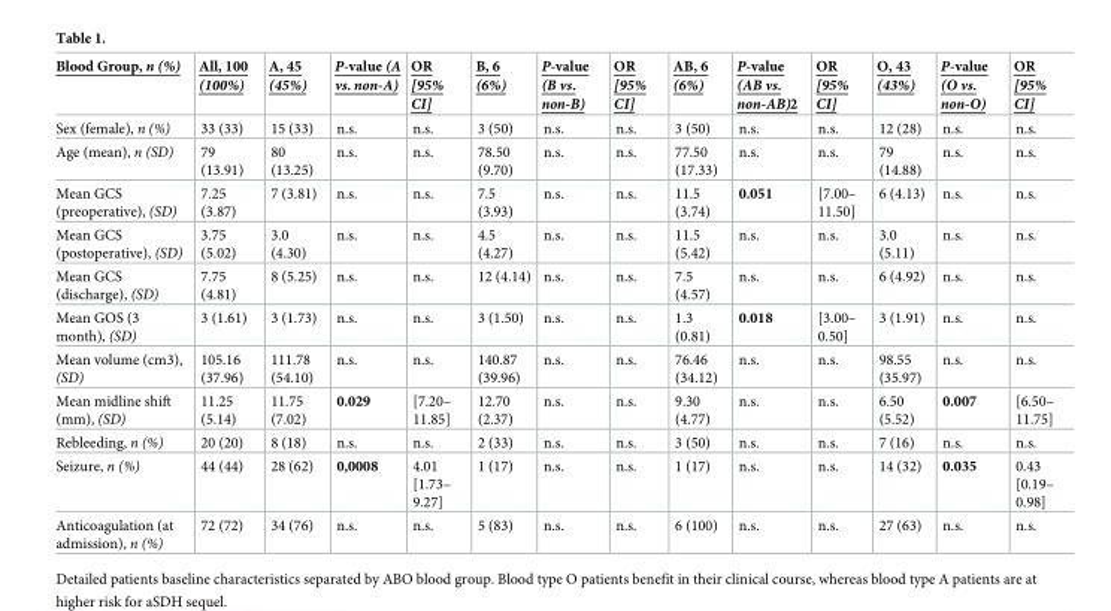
<table><thead><tr><td>Blood Group, n (%)</td><td>All, 100 (100%)</td><td>A, 45 (45%)</td><td>P-value (A vs. non-A)</td><td>OR [95% CI]</td><td>B, 6 (6%)</td><td>P-value (B vs. non-B)</td><td>OR [95% CI]</td><td>AB, 6 (6%)</td><td>P-value (AB vs. non-AB)2</td><td>OR [95% CI]</td><td>O, 43 (43%)</td><td>P-value (O vs. non-O)</td><td>OR [95% CI]</td></tr></thead><tbody><tr><td>Sex (female), n (%)</td><td>33 (33)</td><td>15 (33)</td><td>n.s.</td><td>n.s.</td><td>3 (50)</td><td>n.s.</td><td>n.s.</td><td>3 (50)</td><td>n.s.</td><td>n.s.</td><td>12 (28)</td><td>n.s.</td><td>n.s.</td></tr><tr><td>Age (mean), n (SD)</td><td>79 (13.91)</td><td>80 (13.25)</td><td>n.s.</td><td>n.s.</td><td>78.50 (9.70)</td><td>n.s.</td><td>n.s.</td><td>77.50 (17.33)</td><td>n.s.</td><td>n.s.</td><td>79 (14.88)</td><td>n.s.</td><td>n.s.</td></tr><tr><td>Mean GCS (preoperative), (SD)</td><td>7.25 (3.87)</td><td>7 (3.81)</td><td>n.s.</td><td>n.s.</td><td>7.5 (3.93)</td><td>n.s.</td><td>n.s.</td><td>11.5 (3.74)</td><td>0.051</td><td>[7.00– 11.50]</td><td>6 (4.13)</td><td>n.s.</td><td>n.s.</td></tr><tr><td>Mean GCS (postoperative), (SD)</td><td>3.75 (5.02)</td><td>3.0 (4.30)</td><td>n.s.</td><td>n.s.</td><td>4.5 (4.27)</td><td>n.s.</td><td>n.s.</td><td>11.5 (5.42)</td><td>n.s.</td><td>n.s.</td><td>3.0 (5.11)</td><td>n.s.</td><td>n.s.</td></tr><tr><td>Mean GCS (discharge), (SD)</td><td>7.75 (4.81)</td><td>8 (5.25)</td><td>n.s.</td><td>n.s.</td><td>12 (4.14)</td><td>n.s.</td><td>n.s.</td><td>7.5 (4.57)</td><td>n.s.</td><td>n.s.</td><td>6 (4.92)</td><td>n.s.</td><td>n.s.</td></tr><tr><td>Mean GOS (3 month), (SD)</td><td>3 (1.61)</td><td>3 (1.73)</td><td>n.s.</td><td>n.s.</td><td>3 (1.50)</td><td>n.s.</td><td>n.s.</td><td>1.3 (0.81)</td><td>0.018</td><td>[3.00– 0.50]</td><td>3 (1.91)</td><td>n.s.</td><td>n.s.</td></tr><tr><td>Mean volume (cm3), (SD)</td><td>105.16 (37.96)</td><td>111.78 (54.10)</td><td>n.s.</td><td>n.s.</td><td>140.87 (39.96)</td><td>n.s.</td><td>n.s.</td><td>76.46 (34.12)</td><td>n.s.</td><td>n.s.</td><td>98.55 (35.97)</td><td>n.s.</td><td>n.s.</td></tr><tr><td>Mean midline shift (mm), (SD)</td><td>11.25 (5.14)</td><td>11.75 (7.02)</td><td>0.029</td><td>[7.20– 11.85]</td><td>12.70 (2.37)</td><td>n.s.</td><td>n.s.</td><td>9.30 (4.77)</td><td>n.s.</td><td>n.s.</td><td>6.50 (5.52)</td><td>0.007</td><td>[6.50– 11.75]</td></tr><tr><td>Rebleeding, n (%)</td><td>20 (20)</td><td>8 (18)</td><td>n.s.</td><td>n.s.</td><td>2 (33)</td><td>n.s.</td><td>n.s.</td><td>3 (50)</td><td>n.s.</td><td>n.s.</td><td>7 (16)</td><td>n.s.</td><td>n.s.</td></tr><tr><td>Seizure, n (%)</td><td>44 (44)</td><td>28 (62)</td><td>0,0008</td><td>4.01 [1.73– 9.27]</td><td>1 (17)</td><td>n.s.</td><td>n.s.</td><td>1 (17)</td><td>n.s.</td><td>n.s.</td><td>14 (32)</td><td>0.035</td><td>0.43 [0.19– 0.98]</td></tr><tr><td>Anticoagulation (at admission), n (%)</td><td>72 (72)</td><td>34 (76)</td><td>n.s.</td><td>n.s.</td><td>5 (83)</td><td>n.s.</td><td>n.s.</td><td>6 (100)</td><td>n.s.</td><td>n.s.</td><td>27 (63)</td><td>n.s.</td><td>n.s.</td></tr></tbody></table>